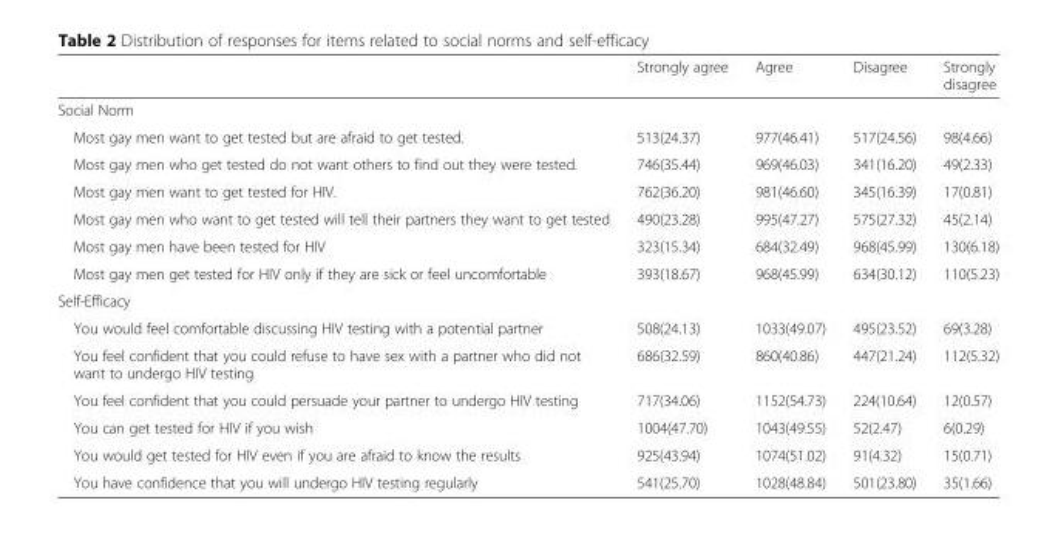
<table><thead><tr><td></td><td>Strongly agree</td><td>Agree</td><td>Disagree</td><td>Strongly disagree</td></tr></thead><tbody><tr><td colspan="5">Social Norm</td></tr><tr><td>Most gay men want to get tested but are afraid to get tested.</td><td>513(24.37)</td><td>977(46.41)</td><td>517(24.56)</td><td>98(4.66)</td></tr><tr><td>Most gay men who get tested do not want others to find out they were tested.</td><td>746(35.44)</td><td>969(46.03)</td><td>341(16.20)</td><td>49(2.33)</td></tr><tr><td>Most gay men want to get tested for HIV.</td><td>762(36.20)</td><td>981(46.60)</td><td>345(16.39)</td><td>17(0.81)</td></tr><tr><td>Most gay men who want to get tested will tell their partners they want to get tested</td><td>490(23.28)</td><td>995(47.27)</td><td>575(27.32)</td><td>45(2.14)</td></tr><tr><td>Most gay men have been tested for HIV</td><td>323(15.34)</td><td>684(32.49)</td><td>968(45.99)</td><td>130(6.18)</td></tr><tr><td>Most gay men get tested for HIV only if they are sick or feel uncomfortable</td><td>393(18.67)</td><td>968(45.99)</td><td>634(30.12)</td><td>110(5.23)</td></tr><tr><td colspan="5">Self-Efficacy</td></tr><tr><td>You would feel comfortable discussing HIV testing with a potential partner</td><td>508(24.13)</td><td>1033(49.07)</td><td>495(23.52)</td><td>69(3.28)</td></tr><tr><td>You feel confident that you could refuse to have sex with a partner who did not want to undergo HIV testing</td><td>686(32.59)</td><td>860(40.86)</td><td>447(21.24)</td><td>112(5.32)</td></tr><tr><td>You feel confident that you could persuade your partner to undergo HIV testing</td><td>717(34.06)</td><td>1152(54.73)</td><td>224(10.64)</td><td>12(0.57)</td></tr><tr><td>You can get tested for HIV if you wish</td><td>1004(47.70)</td><td>1043(49.55)</td><td>52(2.47)</td><td>6(0.29)</td></tr><tr><td>You would get tested for HIV even if you are afraid to know the results</td><td>925(43.94)</td><td>1074(51.02)</td><td>91(4.32)</td><td>15(0.71)</td></tr><tr><td>You have confidence that you will undergo HIV testing regularly</td><td>541(25.70)</td><td>1028(48.84)</td><td>501(23.80)</td><td>35(1.66)</td></tr></tbody></table>